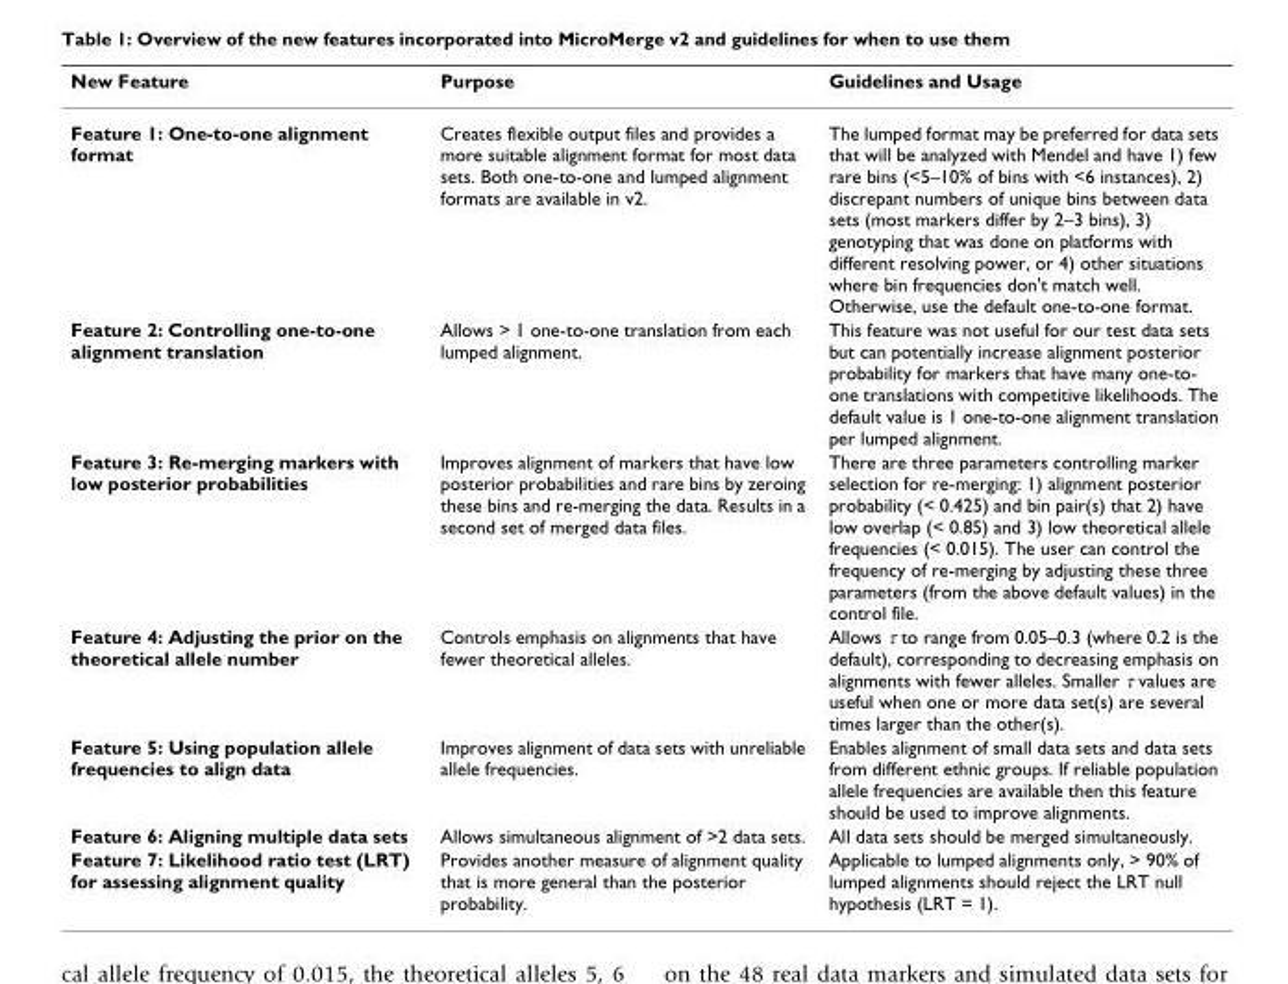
<table><thead><tr><td>New Feature</td><td>Purpose</td><td>Guidelines and Usage</td></tr></thead><tbody><tr><td>Feature 1: One-to-one alignment format</td><td>Creates flexible output files and provides a more suitable alignment format for most data sets. Both one-to-one and lumped alignment formats are available in v2.</td><td>The lumped format may be preferred for data sets that will be analyzed with Mendel and have 1) few rare bins (&lt;5–10% of bins with &lt;6 instances), 2) discrepant numbers of unique bins between data sets (most markers differ by 2–3 bins), 3) genotyping that was done on platforms with different resolving power, or 4) other situations where bin frequencies don&#x27;t match well. Otherwise, use the default one-to-one format.</td></tr><tr><td>Feature 2: Controlling one-to-one alignment translation</td><td>Allows &gt; 1 one-to-one translation from each lumped alignment.</td><td>This feature was not useful for our test data sets but can potentially increase alignment posterior probability for markers that have many one-to- one translations with competitive likelihoods. The default value is 1 one-to-one alignment translation per lumped alignment.</td></tr><tr><td>Feature 3: Re-merging markers with low posterior probabilities</td><td>Improves alignment of markers that have low posterior probabilities and rare bins by zeroing these bins and re-merging the data. Results in a second set of merged data files.</td><td>There are three parameters controlling marker selection for re-merging: 1) alignment posterior probability (&lt; 0.425) and bin pair(s) that 2) have low overlap (&lt; 0.85) and 3) low theoretical allele frequencies (&lt; 0.015). The user can control the frequency of re-merging by adjusting these three parameters (from the above default values) in the control file.</td></tr><tr><td>Feature 4: Adjusting the prior on the theoretical allele number</td><td>Controls emphasis on alignments that have fewer theoretical alleles.</td><td>Allows τ to range from 0.05–0.3 (where 0.2 is the default), corresponding to decreasing emphasis on alignments with fewer alleles. Smaller τ values are useful when one or more data set(s) are several times larger than the other(s).</td></tr><tr><td>Feature 5: Using population allele frequencies to align data</td><td>Improves alignment of data sets with unreliable allele frequencies.</td><td>Enables alignment of small data sets and data sets from different ethnic groups. If reliable population allele frequencies are available then this feature should be used to improve alignments.</td></tr><tr><td>Feature 6: Aligning multiple data sets</td><td>Allows simultaneous alignment of &gt;2 data sets.</td><td>All data sets should be merged simultaneously.</td></tr><tr><td>Feature 7: Likelihood ratio test (LRT) for assessing alignment quality</td><td>Provides another measure of alignment quality that is more general than the posterior probability.</td><td>Applicable to lumped alignments only, &gt; 90% of lumped alignments should reject the LRT null hypothesis (LRT = 1).</td></tr></tbody></table>